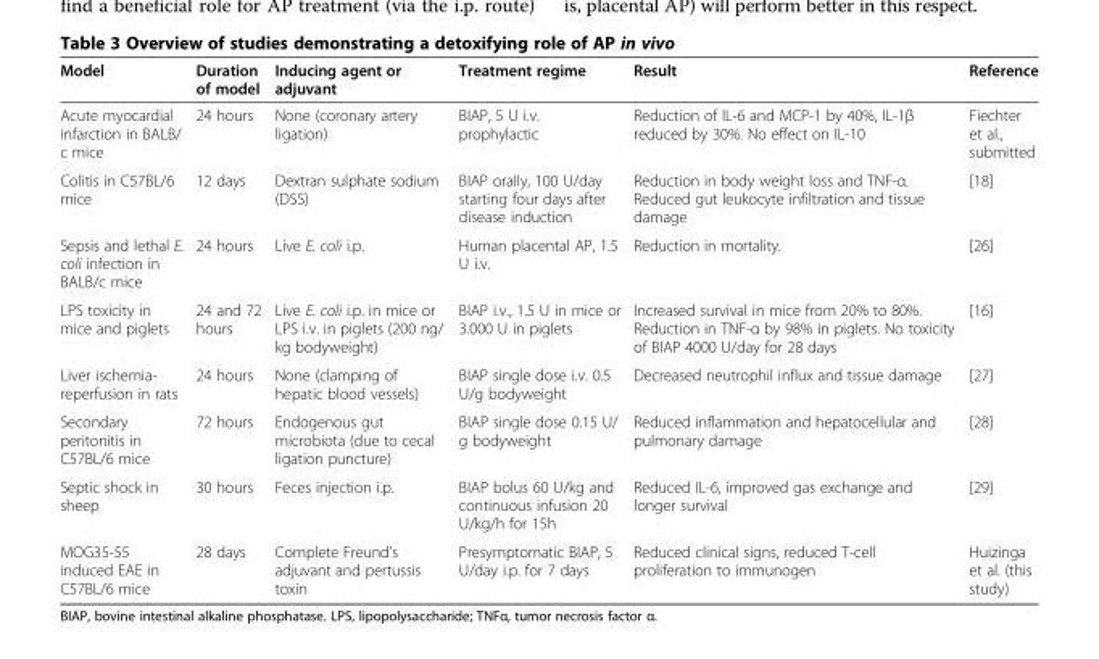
<table><thead><tr><td>Model</td><td>Duration of model</td><td>Inducing agent or adjuvant</td><td>Treatment regime</td><td>Result</td><td>Reference</td></tr></thead><tbody><tr><td>Acute myocardial infarction in BALB/ c mice</td><td>24 hours</td><td>None (coronary artery ligation)</td><td>BIAP, 5 U i.v. prophylactic</td><td>Reduction of IL-6 and MCP-1 by 40%, IL-1β reduced by 30%. No effect on IL-10</td><td>Fiechter et al., submitted</td></tr><tr><td>Colitis in C57BL/6 mice</td><td>12 days</td><td>Dextran sulphate sodium (DSS)</td><td>BIAP orally, 100 U/day starting four days after disease induction</td><td>Reduction in body weight loss and TNF-α. Reduced gut leukocyte infiltration and tissue damage</td><td>[18]</td></tr><tr><td>Sepsis and lethal E. coli infection in BALB/c mice</td><td>24 hours</td><td>Live E. coli i.p.</td><td>Human placental AP, 1.5 U i.v.</td><td>Reduction in mortality.</td><td>[26]</td></tr><tr><td>LPS toxicity in mice and piglets</td><td>24 and 72 hours</td><td>Live E. coli i.p. in mice or LPS i.v. in piglets (200 ng/ kg bodyweight)</td><td>BIAP i.v., 1.5 U in mice or 3.000 U in piglets</td><td>Increased survival in mice from 20% to 80%. Reduction in TNF-α by 98% in piglets. No toxicity of BIAP 4000 U/day for 28 days</td><td>[16]</td></tr><tr><td>Liver ischemia- reperfusion in rats</td><td>24 hours</td><td>None (clamping of hepatic blood vessels)</td><td>BIAP single dose i.v. 0.5 U/g bodyweight</td><td>Decreased neutrophil influx and tissue damage</td><td>[27]</td></tr><tr><td>Secondary peritonitis in C57BL/6 mice</td><td>72 hours</td><td>Endogenous gut microbiota (due to cecal ligation puncture)</td><td>BIAP single dose 0.15 U/ g bodyweight</td><td>Reduced inflammation and hepatocellular and pulmonary damage</td><td>[28]</td></tr><tr><td>Septic shock in sheep</td><td>30 hours</td><td>Feces injection i.p.</td><td>BIAP bolus 60 U/kg and continuous infusion 20 U/kg/h for 15h</td><td>Reduced IL-6, improved gas exchange and longer survival</td><td>[29]</td></tr><tr><td>MOG35-55 induced EAE in C57BL/6 mice</td><td>28 days</td><td>Complete Freund’s adjuvant and pertussis toxin</td><td>Presymptomatic BIAP, 5 U/day i.p. for 7 days</td><td>Reduced clinical signs, reduced T-cell proliferation to immunogen</td><td>Huizinga et al. (this study)</td></tr></tbody></table>